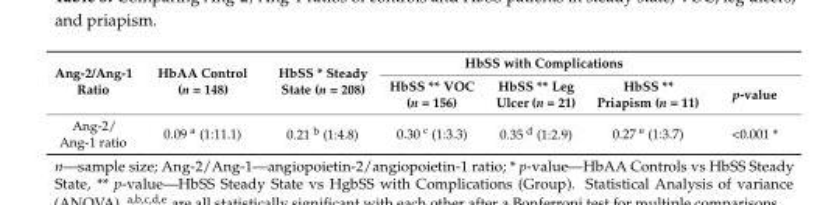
<table><thead><tr><td rowspan="2">Ang-2/Ang-1 Ratio</td><td rowspan="2">HbAA Control (n = 148)</td><td rowspan="2">HbSS * Steady State (n = 208)</td><td colspan="3">HbSS with Complications</td><td rowspan="2">p-value</td></tr><tr><td>HbSS ** VOC (n = 156)</td><td>HbSS ** Leg Ulcer (n = 21)</td><td>HbSS ** Priapism (n = 11)</td></tr></thead><tbody><tr><td>Ang-2/ Ang-1 ratio</td><td>0.09 <sup>a</sup> (1:11.1)</td><td>0.21 <sup>b</sup> (1:4.8)</td><td>0.30 <sup>c</sup> (1:3.3)</td><td>0.35 <sup>d</sup> (1:2.9)</td><td>0.27 <sup>e</sup> (1:3.7)</td><td>&lt;0.001 *</td></tr></tbody></table>